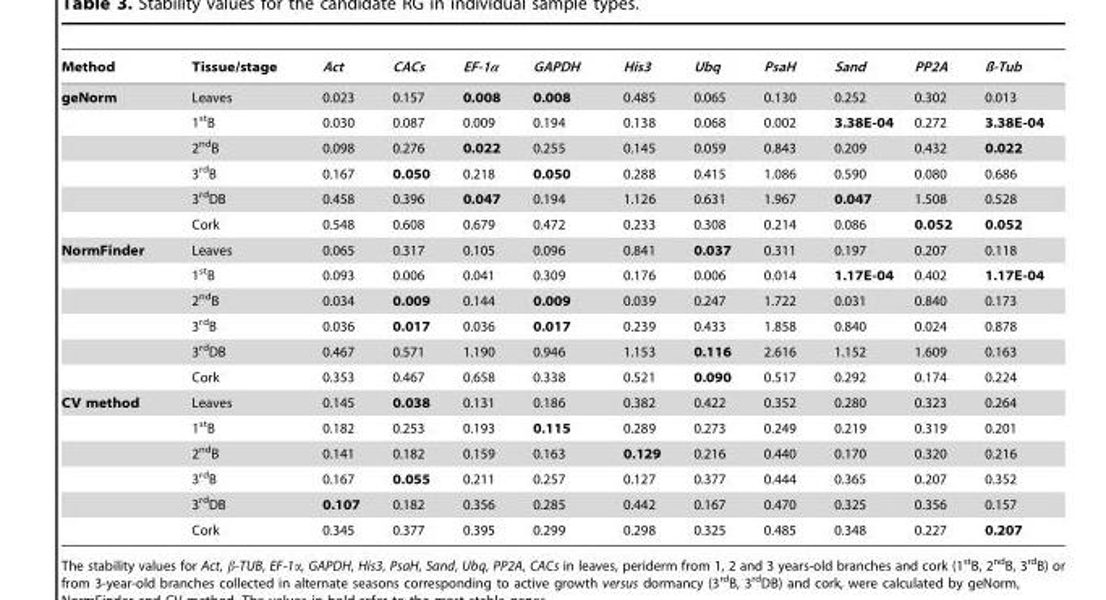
<table><thead><tr><td>Method</td><td>Tissue/stage</td><td>Act</td><td>CACs</td><td>EF-1α</td><td>GAPDH</td><td>His3</td><td>Ubq</td><td>PsaH</td><td>Sand</td><td>PP2A</td><td>ß-Tub</td></tr></thead><tbody><tr><td rowspan="6">geNorm</td><td>Leaves</td><td>0.023</td><td>0.157</td><td>0.008</td><td>0.008</td><td>0.485</td><td>0.065</td><td>0.130</td><td>0.252</td><td>0.302</td><td>0.013</td></tr><tr><td>1<sup>st</sup>B</td><td>0.030</td><td>0.087</td><td>0.009</td><td>0.194</td><td>0.138</td><td>0.068</td><td>0.002</td><td>3.38E-04</td><td>0.272</td><td>3.38E-04</td></tr><tr><td>2<sup>nd</sup>B</td><td>0.098</td><td>0.276</td><td>0.022</td><td>0.255</td><td>0.145</td><td>0.059</td><td>0.843</td><td>0.209</td><td>0.432</td><td>0.022</td></tr><tr><td>3<sup>rd</sup>B</td><td>0.167</td><td>0.050</td><td>0.218</td><td>0.050</td><td>0.288</td><td>0.415</td><td>1.086</td><td>0.590</td><td>0.080</td><td>0.686</td></tr><tr><td>3<sup>rd</sup>DB</td><td>0.458</td><td>0.396</td><td>0.047</td><td>0.194</td><td>1.126</td><td>0.631</td><td>1.967</td><td>0.047</td><td>1.508</td><td>0.528</td></tr><tr><td>Cork</td><td>0.548</td><td>0.608</td><td>0.679</td><td>0.472</td><td>0.233</td><td>0.308</td><td>0.214</td><td>0.086</td><td>0.052</td><td>0.052</td></tr><tr><td rowspan="6">NormFinder</td><td>Leaves</td><td>0.065</td><td>0.317</td><td>0.105</td><td>0.096</td><td>0.841</td><td>0.037</td><td>0.311</td><td>0.197</td><td>0.207</td><td>0.118</td></tr><tr><td>1<sup>st</sup>B</td><td>0.093</td><td>0.006</td><td>0.041</td><td>0.309</td><td>0.176</td><td>0.006</td><td>0.014</td><td>1.17E-04</td><td>0.402</td><td>1.17E-04</td></tr><tr><td>2<sup>nd</sup>B</td><td>0.034</td><td>0.009</td><td>0.144</td><td>0.009</td><td>0.039</td><td>0.247</td><td>1.722</td><td>0.031</td><td>0.840</td><td>0.173</td></tr><tr><td>3<sup>rd</sup>B</td><td>0.036</td><td>0.017</td><td>0.036</td><td>0.017</td><td>0.239</td><td>0.433</td><td>1.858</td><td>0.840</td><td>0.024</td><td>0.878</td></tr><tr><td>3<sup>rd</sup>DB</td><td>0.467</td><td>0.571</td><td>1.190</td><td>0.946</td><td>1.153</td><td>0.116</td><td>2.616</td><td>1.152</td><td>1.609</td><td>0.163</td></tr><tr><td>Cork</td><td>0.353</td><td>0.467</td><td>0.658</td><td>0.338</td><td>0.521</td><td>0.090</td><td>0.517</td><td>0.292</td><td>0.174</td><td>0.224</td></tr><tr><td rowspan="6">CV method</td><td>Leaves</td><td>0.145</td><td>0.038</td><td>0.131</td><td>0.186</td><td>0.382</td><td>0.422</td><td>0.352</td><td>0.280</td><td>0.323</td><td>0.264</td></tr><tr><td>1<sup>st</sup>B</td><td>0.182</td><td>0.253</td><td>0.193</td><td>0.115</td><td>0.289</td><td>0.273</td><td>0.249</td><td>0.219</td><td>0.319</td><td>0.201</td></tr><tr><td>2<sup>nd</sup>B</td><td>0.141</td><td>0.182</td><td>0.159</td><td>0.163</td><td>0.129</td><td>0.216</td><td>0.440</td><td>0.170</td><td>0.320</td><td>0.216</td></tr><tr><td>3<sup>rd</sup>B</td><td>0.167</td><td>0.055</td><td>0.211</td><td>0.257</td><td>0.127</td><td>0.377</td><td>0.444</td><td>0.365</td><td>0.207</td><td>0.352</td></tr><tr><td>3<sup>rd</sup>DB</td><td>0.107</td><td>0.182</td><td>0.356</td><td>0.285</td><td>0.442</td><td>0.167</td><td>0.470</td><td>0.325</td><td>0.356</td><td>0.157</td></tr><tr><td>Cork</td><td>0.345</td><td>0.377</td><td>0.395</td><td>0.299</td><td>0.298</td><td>0.325</td><td>0.485</td><td>0.348</td><td>0.227</td><td>0.207</td></tr></tbody></table>